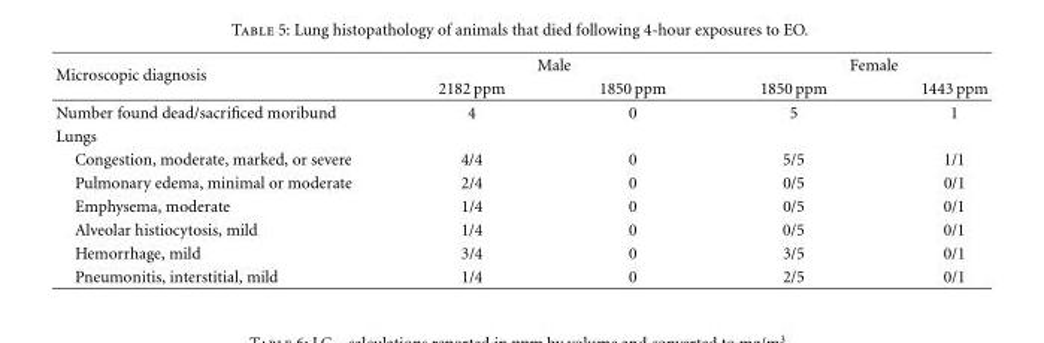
<table><thead><tr><td rowspan="2">Microscopic diagnosis</td><td colspan="2">Male</td><td colspan="2">Female</td></tr><tr><td>2182 ppm</td><td>1850 ppm</td><td>1850 ppm</td><td>1443 ppm</td></tr></thead><tbody><tr><td>Number found dead/sacrificed moribund</td><td>4</td><td>0</td><td>5</td><td>1</td></tr><tr><td colspan="5">Lungs</td></tr><tr><td>Congestion, moderate, marked, or severe</td><td>4/4</td><td>0</td><td>5/5</td><td>1/1</td></tr><tr><td>Pulmonary edema, minimal or moderate</td><td>2/4</td><td>0</td><td>0/5</td><td>0/1</td></tr><tr><td>Emphysema, moderate</td><td>1/4</td><td>0</td><td>0/5</td><td>0/1</td></tr><tr><td>Alveolar histiocytosis, mild</td><td>1/4</td><td>0</td><td>0/5</td><td>0/1</td></tr><tr><td>Hemorrhage, mild</td><td>3/4</td><td>0</td><td>3/5</td><td>0/1</td></tr><tr><td>Pneumonitis, interstitial, mild</td><td>1/4</td><td>0</td><td>2/5</td><td>0/1</td></tr></tbody></table>